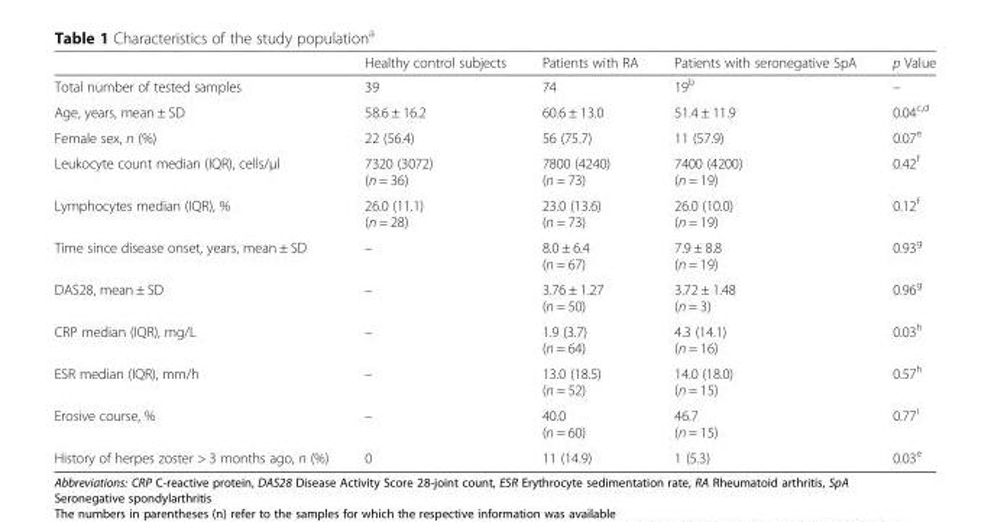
<table><thead><tr><td></td><td>Healthy control subjects</td><td>Patients with RA</td><td>Patients with seronegative SpA</td><td>p Value</td></tr></thead><tbody><tr><td>Total number of tested samples</td><td>39</td><td>74</td><td>19<sup>b</sup></td><td>–</td></tr><tr><td>Age, years, mean ± SD</td><td>58.6 ± 16.2</td><td>60.6 ± 13.0</td><td>51.4 ± 11.9</td><td>0.04<sup>c,d</sup></td></tr><tr><td>Female sex, n (%)</td><td>22 (56.4)</td><td>56 (75.7)</td><td>11 (57.9)</td><td>0.07<sup>e</sup></td></tr><tr><td>Leukocyte count median (IQR), cells/μl</td><td>7320 (3072) (n = 36)</td><td>7800 (4240) (n = 73)</td><td>7400 (4200) (n = 19)</td><td>0.42<sup>f</sup></td></tr><tr><td>Lymphocytes median (IQR), %</td><td>26.0 (11.1) (n = 28)</td><td>23.0 (13.6) (n = 73)</td><td>26.0 (10.0) (n = 19)</td><td>0.12<sup>f</sup></td></tr><tr><td>Time since disease onset, years, mean ± SD</td><td>–</td><td>8.0 ± 6.4 (n = 67)</td><td>7.9 ± 8.8 (n = 19)</td><td>0.93<sup>g</sup></td></tr><tr><td>DAS28, mean ± SD</td><td>–</td><td>3.76 ± 1.27 (n = 50)</td><td>3.72 ± 1.48 (n = 3)</td><td>0.96<sup>g</sup></td></tr><tr><td>CRP median (IQR), mg/L</td><td>–</td><td>1.9 (3.7) (n = 64)</td><td>4.3 (14.1) (n = 16)</td><td>0.03<sup>h</sup></td></tr><tr><td>ESR median (IQR), mm/h</td><td>–</td><td>13.0 (18.5) (n = 52)</td><td>14.0 (18.0) (n = 15)</td><td>0.57<sup>h</sup></td></tr><tr><td>Erosive course, %</td><td>–</td><td>40.0 (n = 60)</td><td>46.7 (n = 15)</td><td>0.77<sup>i</sup></td></tr><tr><td>History of herpes zoster &gt; 3 months ago, n (%)</td><td>0</td><td>11 (14.9)</td><td>1 (5.3)</td><td>0.03<sup>e</sup></td></tr></tbody></table>